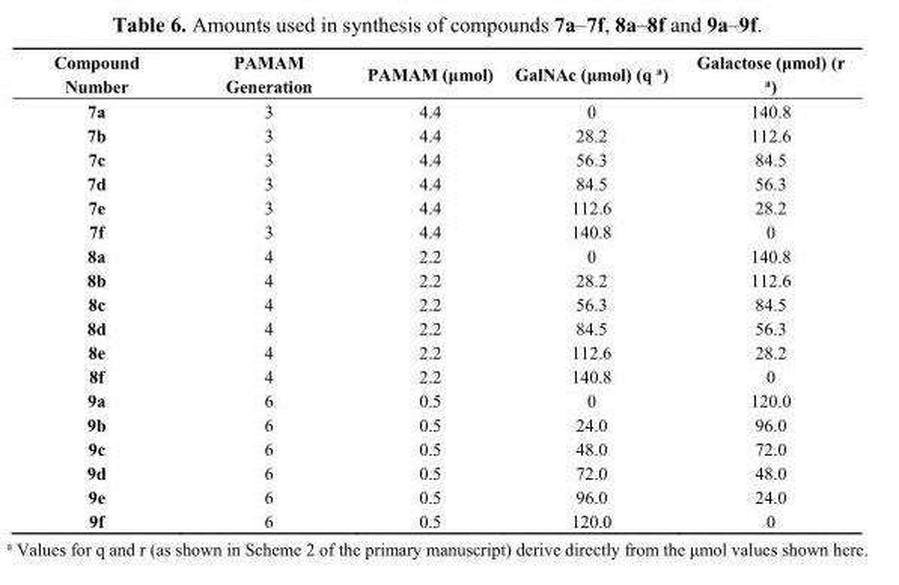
<table><thead><tr><td>Compound Number</td><td>PAMAM Generation</td><td>PAMAM (μmol)</td><td>GalNAc (μmol) (q <sup>a</sup>)</td><td>Galactose (μmol) (r <sup>a</sup>)</td></tr></thead><tbody><tr><td>7a</td><td>3</td><td>4.4</td><td>0</td><td>140.8</td></tr><tr><td>7b</td><td>3</td><td>4.4</td><td>28.2</td><td>112.6</td></tr><tr><td>7c</td><td>3</td><td>4.4</td><td>56.3</td><td>84.5</td></tr><tr><td>7d</td><td>3</td><td>4.4</td><td>84.5</td><td>56.3</td></tr><tr><td>7e</td><td>3</td><td>4.4</td><td>112.6</td><td>28.2</td></tr><tr><td>7f</td><td>3</td><td>4.4</td><td>140.8</td><td>0</td></tr><tr><td>8a</td><td>4</td><td>2.2</td><td>0</td><td>140.8</td></tr><tr><td>8b</td><td>4</td><td>2.2</td><td>28.2</td><td>112.6</td></tr><tr><td>8c</td><td>4</td><td>2.2</td><td>56.3</td><td>84.5</td></tr><tr><td>8d</td><td>4</td><td>2.2</td><td>84.5</td><td>56.3</td></tr><tr><td>8e</td><td>4</td><td>2.2</td><td>112.6</td><td>28.2</td></tr><tr><td>8f</td><td>4</td><td>2.2</td><td>140.8</td><td>0</td></tr><tr><td>9a</td><td>6</td><td>0.5</td><td>0</td><td>120.0</td></tr><tr><td>9b</td><td>6</td><td>0.5</td><td>24.0</td><td>96.0</td></tr><tr><td>9c</td><td>6</td><td>0.5</td><td>48.0</td><td>72.0</td></tr><tr><td>9d</td><td>6</td><td>0.5</td><td>72.0</td><td>48.0</td></tr><tr><td>9e</td><td>6</td><td>0.5</td><td>96.0</td><td>24.0</td></tr><tr><td>9f</td><td>6</td><td>0.5</td><td>120.0</td><td>0</td></tr></tbody></table>